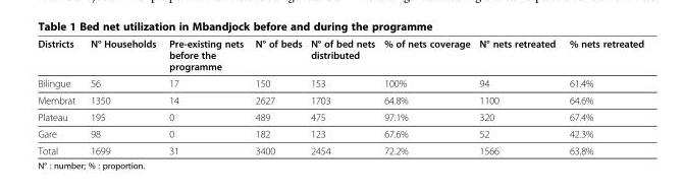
<table><thead><tr><td>Districts</td><td>N° Households</td><td>Pre-existing nets before the programme</td><td>N° of beds</td><td>N° of bed nets distributed</td><td>% of nets coverage</td><td>N° nets retreated</td><td>% nets retreated</td></tr></thead><tbody><tr><td>Bilingue</td><td>56</td><td>17</td><td>150</td><td>153</td><td>100%</td><td>94</td><td>61.4%</td></tr><tr><td>Membrat</td><td>1350</td><td>14</td><td>2627</td><td>1703</td><td>64.8%</td><td>1100</td><td>64.6%</td></tr><tr><td>Plateau</td><td>195</td><td>0</td><td>489</td><td>475</td><td>97.1%</td><td>320</td><td>67.4%</td></tr><tr><td>Gare</td><td>98</td><td>0</td><td>182</td><td>123</td><td>67.6%</td><td>52</td><td>42.3%</td></tr><tr><td>Total</td><td>1699</td><td>31</td><td>3400</td><td>2454</td><td>72.2%</td><td>1566</td><td>63.8%</td></tr></tbody></table>